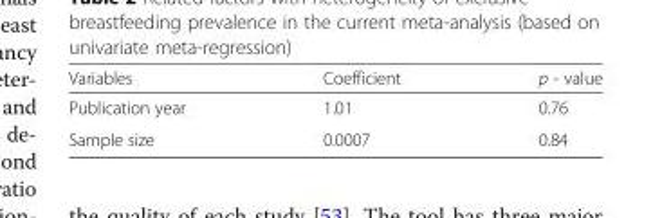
<table><thead><tr><td>Variables</td><td>Coefficient</td><td>p - value</td></tr></thead><tbody><tr><td>Publication year</td><td>1.01</td><td>0.76</td></tr><tr><td>Sample size</td><td>0.0007</td><td>0.84</td></tr></tbody></table>